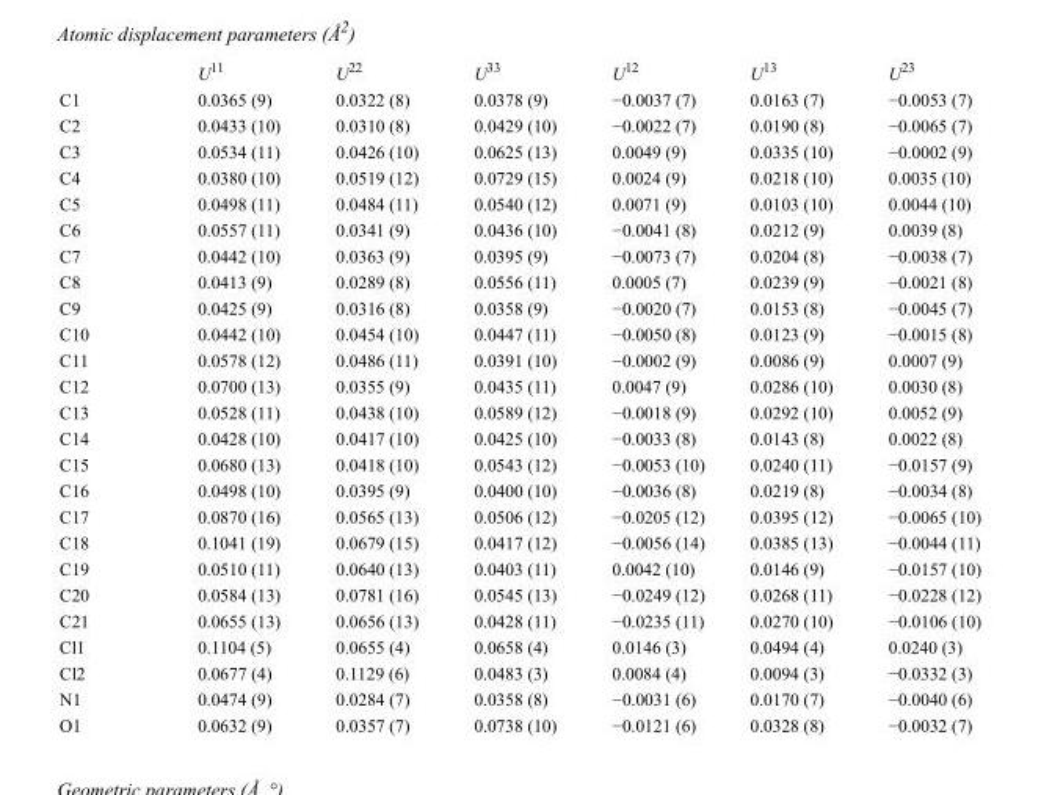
<table><thead><tr><td></td><td>U<sup>11</sup></td><td>U<sup>22</sup></td><td>U<sup>33</sup></td><td>U<sup>12</sup></td><td>U<sup>13</sup></td><td>U<sup>23</sup></td></tr></thead><tbody><tr><td>C1</td><td>0.0365 (9)</td><td>0.0322 (8)</td><td>0.0378 (9)</td><td>−0.0037 (7)</td><td>0.0163 (7)</td><td>−0.0053 (7)</td></tr><tr><td>C2</td><td>0.0433 (10)</td><td>0.0310 (8)</td><td>0.0429 (10)</td><td>−0.0022 (7)</td><td>0.0190 (8)</td><td>−0.0065 (7)</td></tr><tr><td>C3</td><td>0.0534 (11)</td><td>0.0426 (10)</td><td>0.0625 (13)</td><td>0.0049 (9)</td><td>0.0335 (10)</td><td>−0.0002 (9)</td></tr><tr><td>C4</td><td>0.0380 (10)</td><td>0.0519 (12)</td><td>0.0729 (15)</td><td>0.0024 (9)</td><td>0.0218 (10)</td><td>0.0035 (10)</td></tr><tr><td>C5</td><td>0.0498 (11)</td><td>0.0484 (11)</td><td>0.0540 (12)</td><td>0.0071 (9)</td><td>0.0103 (10)</td><td>0.0044 (10)</td></tr><tr><td>C6</td><td>0.0557 (11)</td><td>0.0341 (9)</td><td>0.0436 (10)</td><td>−0.0041 (8)</td><td>0.0212 (9)</td><td>0.0039 (8)</td></tr><tr><td>C7</td><td>0.0442 (10)</td><td>0.0363 (9)</td><td>0.0395 (9)</td><td>−0.0073 (7)</td><td>0.0204 (8)</td><td>−0.0038 (7)</td></tr><tr><td>C8</td><td>0.0413 (9)</td><td>0.0289 (8)</td><td>0.0556 (11)</td><td>0.0005 (7)</td><td>0.0239 (9)</td><td>−0.0021 (8)</td></tr><tr><td>C9</td><td>0.0425 (9)</td><td>0.0316 (8)</td><td>0.0358 (9)</td><td>−0.0020 (7)</td><td>0.0153 (8)</td><td>−0.0045 (7)</td></tr><tr><td>C10</td><td>0.0442 (10)</td><td>0.0454 (10)</td><td>0.0447 (11)</td><td>−0.0050 (8)</td><td>0.0123 (9)</td><td>−0.0015 (8)</td></tr><tr><td>C11</td><td>0.0578 (12)</td><td>0.0486 (11)</td><td>0.0391 (10)</td><td>−0.0002 (9)</td><td>0.0086 (9)</td><td>0.0007 (9)</td></tr><tr><td>C12</td><td>0.0700 (13)</td><td>0.0355 (9)</td><td>0.0435 (11)</td><td>0.0047 (9)</td><td>0.0286 (10)</td><td>0.0030 (8)</td></tr><tr><td>C13</td><td>0.0528 (11)</td><td>0.0438 (10)</td><td>0.0589 (12)</td><td>−0.0018 (9)</td><td>0.0292 (10)</td><td>0.0052 (9)</td></tr><tr><td>C14</td><td>0.0428 (10)</td><td>0.0417 (10)</td><td>0.0425 (10)</td><td>−0.0033 (8)</td><td>0.0143 (8)</td><td>0.0022 (8)</td></tr><tr><td>C15</td><td>0.0680 (13)</td><td>0.0418 (10)</td><td>0.0543 (12)</td><td>−0.0053 (10)</td><td>0.0240 (11)</td><td>−0.0157 (9)</td></tr><tr><td>C16</td><td>0.0498 (10)</td><td>0.0395 (9)</td><td>0.0400 (10)</td><td>−0.0036 (8)</td><td>0.0219 (8)</td><td>−0.0034 (8)</td></tr><tr><td>C17</td><td>0.0870 (16)</td><td>0.0565 (13)</td><td>0.0506 (12)</td><td>−0.0205 (12)</td><td>0.0395 (12)</td><td>−0.0065 (10)</td></tr><tr><td>C18</td><td>0.1041 (19)</td><td>0.0679 (15)</td><td>0.0417 (12)</td><td>−0.0056 (14)</td><td>0.0385 (13)</td><td>−0.0044 (11)</td></tr><tr><td>C19</td><td>0.0510 (11)</td><td>0.0640 (13)</td><td>0.0403 (11)</td><td>0.0042 (10)</td><td>0.0146 (9)</td><td>−0.0157 (10)</td></tr><tr><td>C20</td><td>0.0584 (13)</td><td>0.0781 (16)</td><td>0.0545 (13)</td><td>−0.0249 (12)</td><td>0.0268 (11)</td><td>−0.0228 (12)</td></tr><tr><td>C21</td><td>0.0655 (13)</td><td>0.0656 (13)</td><td>0.0428 (11)</td><td>−0.0235 (11)</td><td>0.0270 (10)</td><td>−0.0106 (10)</td></tr><tr><td>Cl1</td><td>0.1104 (5)</td><td>0.0655 (4)</td><td>0.0658 (4)</td><td>0.0146 (3)</td><td>0.0494 (4)</td><td>0.0240 (3)</td></tr><tr><td>Cl2</td><td>0.0677 (4)</td><td>0.1129 (6)</td><td>0.0483 (3)</td><td>0.0084 (4)</td><td>0.0094 (3)</td><td>−0.0332 (3)</td></tr><tr><td>N1</td><td>0.0474 (9)</td><td>0.0284 (7)</td><td>0.0358 (8)</td><td>−0.0031 (6)</td><td>0.0170 (7)</td><td>−0.0040 (6)</td></tr><tr><td>O1</td><td>0.0632 (9)</td><td>0.0357 (7)</td><td>0.0738 (10)</td><td>−0.0121 (6)</td><td>0.0328 (8)</td><td>−0.0032 (7)</td></tr></tbody></table>